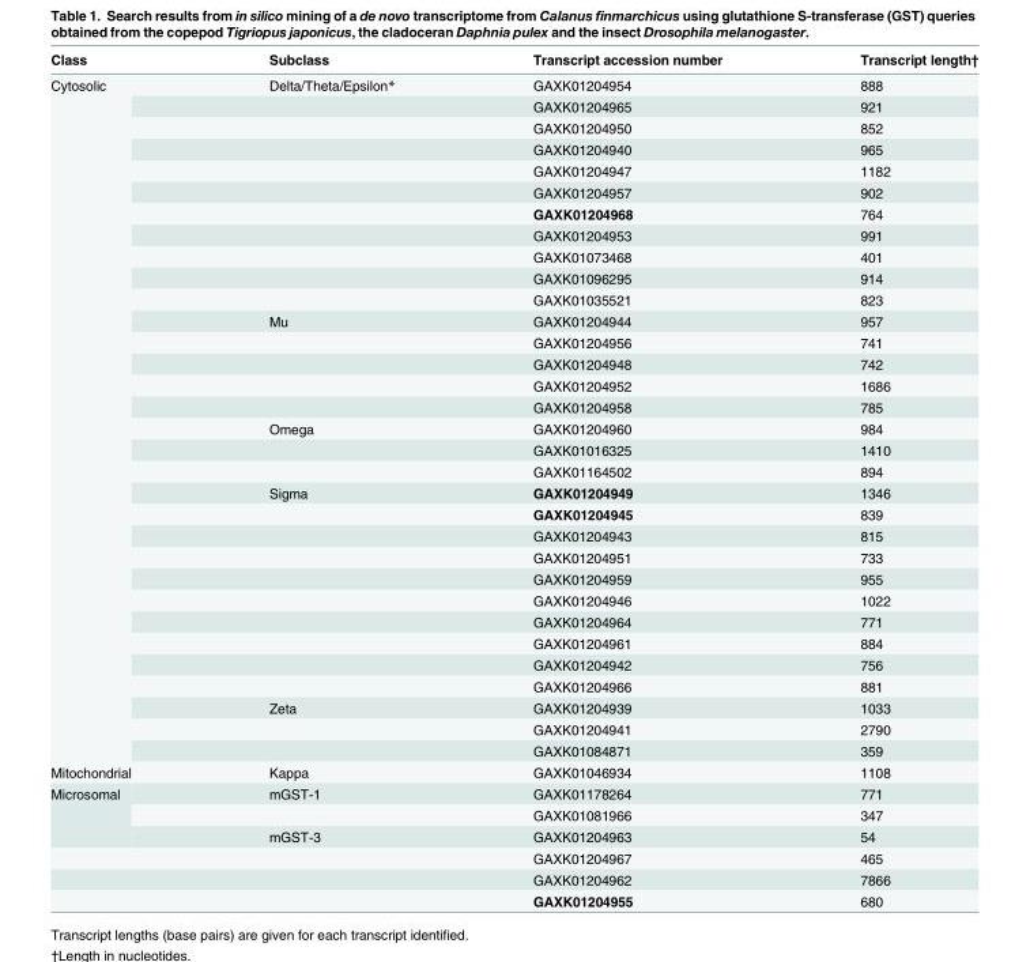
<table><thead><tr><td>Class</td><td>Subclass</td><td>Transcript accession number</td><td>Transcript length†</td></tr></thead><tbody><tr><td rowspan="32">Cytosolic</td><td>Delta/Theta/Epsilon*</td><td>GAXK01204954</td><td>888</td></tr><tr><td></td><td>GAXK01204965</td><td>921</td></tr><tr><td></td><td>GAXK01204950</td><td>852</td></tr><tr><td></td><td>GAXK01204940</td><td>965</td></tr><tr><td></td><td>GAXK01204947</td><td>1182</td></tr><tr><td></td><td>GAXK01204957</td><td>902</td></tr><tr><td></td><td>GAXK01204968</td><td>764</td></tr><tr><td></td><td>GAXK01204953</td><td>991</td></tr><tr><td></td><td>GAXK01073468</td><td>401</td></tr><tr><td></td><td>GAXK01096295</td><td>914</td></tr><tr><td></td><td>GAXK01035521</td><td>823</td></tr><tr><td>Mu</td><td>GAXK01204944</td><td>957</td></tr><tr><td></td><td>GAXK01204956</td><td>741</td></tr><tr><td></td><td>GAXK01204948</td><td>742</td></tr><tr><td></td><td>GAXK01204952</td><td>1686</td></tr><tr><td></td><td>GAXK01204958</td><td>785</td></tr><tr><td>Omega</td><td>GAXK01204960</td><td>984</td></tr><tr><td></td><td>GAXK01016325</td><td>1410</td></tr><tr><td></td><td>GAXK01164502</td><td>894</td></tr><tr><td>Sigma</td><td>GAXK01204949</td><td>1346</td></tr><tr><td></td><td>GAXK01204945</td><td>839</td></tr><tr><td></td><td>GAXK01204943</td><td>815</td></tr><tr><td></td><td>GAXK01204951</td><td>733</td></tr><tr><td></td><td>GAXK01204959</td><td>955</td></tr><tr><td></td><td>GAXK01204946</td><td>1022</td></tr><tr><td></td><td>GAXK01204964</td><td>771</td></tr><tr><td></td><td>GAXK01204961</td><td>884</td></tr><tr><td></td><td>GAXK01204942</td><td>756</td></tr><tr><td></td><td>GAXK01204966</td><td>881</td></tr><tr><td>Zeta</td><td>GAXK01204939</td><td>1033</td></tr><tr><td></td><td>GAXK01204941</td><td>2790</td></tr><tr><td></td><td>GAXK01084871</td><td>359</td></tr><tr><td>Mitochondrial</td><td>Kappa</td><td>GAXK01046934</td><td>1108</td></tr><tr><td rowspan="6">Microsomal</td><td>mGST-1</td><td>GAXK01178264</td><td>771</td></tr><tr><td></td><td>GAXK01081966</td><td>347</td></tr><tr><td>mGST-3</td><td>GAXK01204963</td><td>54</td></tr><tr><td></td><td>GAXK01204967</td><td>465</td></tr><tr><td></td><td>GAXK01204962</td><td>7866</td></tr><tr><td></td><td>GAXK01204955</td><td>680</td></tr></tbody></table>